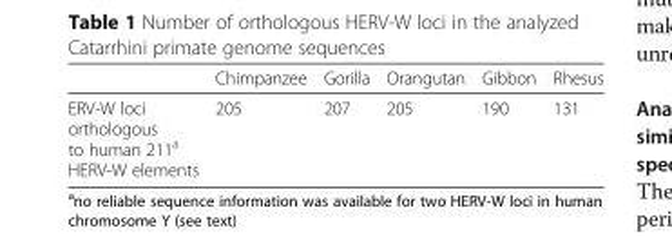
<table><thead><tr><td></td><td>Chimpanzee</td><td>Gorilla</td><td>Orangutan</td><td>Gibbon</td><td>Rhesus</td></tr></thead><tbody><tr><td>ERV-W loci orthologous to human 211<sup>a</sup> HERV-W elements</td><td>205</td><td>207</td><td>205</td><td>190</td><td>131</td></tr></tbody></table>